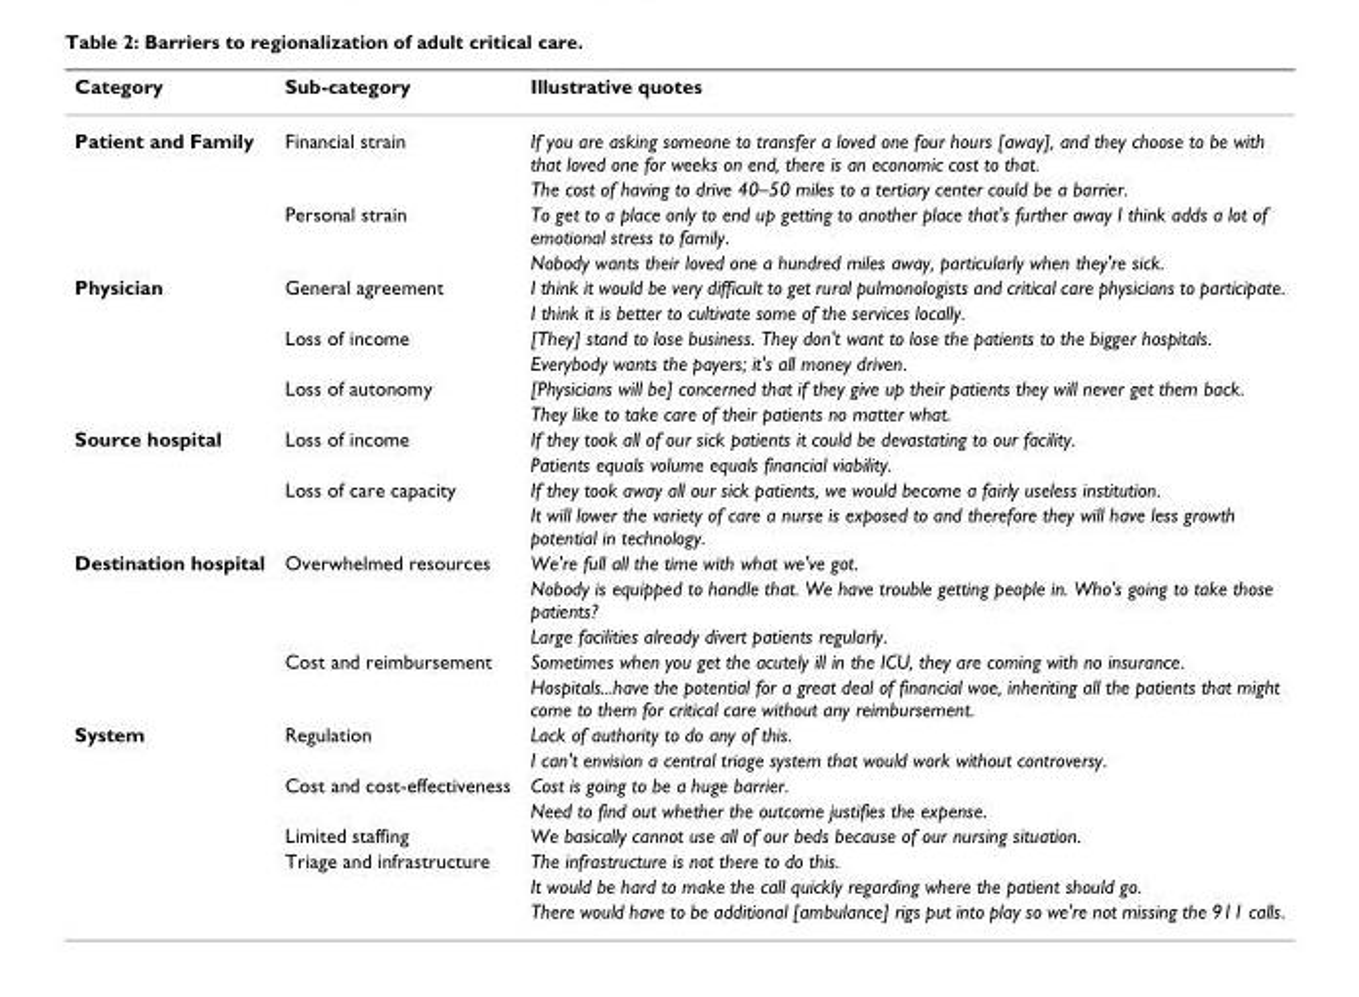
<table><thead><tr><td>Category</td><td>Sub-category</td><td>Illustrative quotes</td></tr></thead><tbody><tr><td rowspan="4">Patient and Family</td><td>Financial strain</td><td>If you are asking someone to transfer a loved one four hours [away], and they choose to be with that loved one for weeks on end, there is an economic cost to that.</td></tr><tr><td></td><td>The cost of having to drive 40–50 miles to a tertiary center could be a barrier.</td></tr><tr><td>Personal strain</td><td>To get to a place only to end up getting to another place that&#x27;s further away I think adds a lot of emotional stress to family.</td></tr><tr><td></td><td>Nobody wants their loved one a hundred miles away, particularly when they&#x27;re sick.</td></tr><tr><td rowspan="6">Physician</td><td>General agreement</td><td>I think it would be very difficult to get rural pulmonologists and critical care physicians to participate.</td></tr><tr><td></td><td>I think it is better to cultivate some of the services locally.</td></tr><tr><td>Loss of income</td><td>[They] stand to lose business. They don&#x27;t want to lose the patients to the bigger hospitals.</td></tr><tr><td></td><td>Everybody wants the payers; it&#x27;s all money driven.</td></tr><tr><td>Loss of autonomy</td><td>[Physicians will be] concerned that if they give up their patients they will never get them back.</td></tr><tr><td></td><td>They like to take care of their patients no matter what.</td></tr><tr><td rowspan="4">Source hospital</td><td>Loss of income</td><td>If they took all of our sick patients it could be devastating to our facility.</td></tr><tr><td></td><td>Patients equals volume equals financial viability.</td></tr><tr><td>Loss of care capacity</td><td>If they took away all our sick patients, we would become a fairly useless institution.</td></tr><tr><td></td><td>It will lower the variety of care a nurse is exposed to and therefore they will have less growth potential in technology.</td></tr><tr><td rowspan="5">Destination hospital</td><td>Overwhelmed resources</td><td>We&#x27;re full all the time with what we&#x27;ve got.</td></tr><tr><td></td><td>Nobody is equipped to handle that. We have trouble getting people in. Who&#x27;s going to take those patients?</td></tr><tr><td></td><td>Large facilities already divert patients regularly.</td></tr><tr><td>Cost and reimbursement</td><td>Sometimes when you get the acutely ill in the ICU, they are coming with no insurance.</td></tr><tr><td></td><td>Hospitals...have the potential for a great deal of financial woe, inheriting all the patients that might come to them for critical care without any reimbursement.</td></tr><tr><td rowspan="8">System</td><td>Regulation</td><td>Lack of authority to do any of this.</td></tr><tr><td></td><td>I can&#x27;t envision a central triage system that would work without controversy.</td></tr><tr><td>Cost and cost-effectiveness</td><td>Cost is going to be a huge barrier.</td></tr><tr><td></td><td>Need to find out whether the outcome justifies the expense.</td></tr><tr><td>Limited staffing</td><td>We basically cannot use all of our beds because of our nursing situation.</td></tr><tr><td>Triage and infrastructure</td><td>The infrastructure is not there to do this.</td></tr><tr><td></td><td>It would be hard to make the call quickly regarding where the patient should go.</td></tr><tr><td></td><td>There would have to be additional [ambulance] rigs put into play so we&#x27;re not missing the 911 calls.</td></tr></tbody></table>